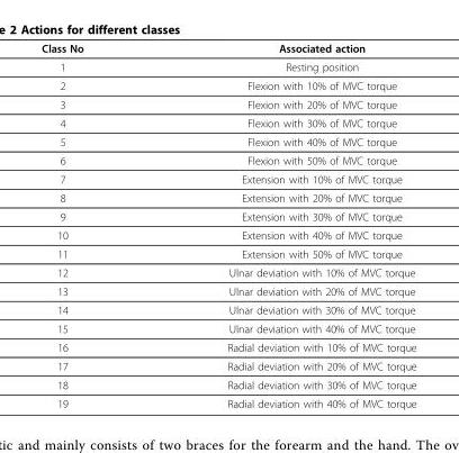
<table><thead><tr><td>Class No</td><td>Associated action</td></tr></thead><tbody><tr><td>1</td><td>Resting position</td></tr><tr><td>2</td><td>Flexion with 10% of MVC torque</td></tr><tr><td>3</td><td>Flexion with 20% of MVC torque</td></tr><tr><td>4</td><td>Flexion with 30% of MVC torque</td></tr><tr><td>5</td><td>Flexion with 40% of MVC torque</td></tr><tr><td>6</td><td>Flexion with 50% of MVC torque</td></tr><tr><td>7</td><td>Extension with 10% of MVC torque</td></tr><tr><td>8</td><td>Extension with 20% of MVC torque</td></tr><tr><td>9</td><td>Extension with 30% of MVC torque</td></tr><tr><td>10</td><td>Extension with 40% of MVC torque</td></tr><tr><td>11</td><td>Extension with 50% of MVC torque</td></tr><tr><td>12</td><td>Ulnar deviation with 10% of MVC torque</td></tr><tr><td>13</td><td>Ulnar deviation with 20% of MVC torque</td></tr><tr><td>14</td><td>Ulnar deviation with 30% of MVC torque</td></tr><tr><td>15</td><td>Ulnar deviation with 40% of MVC torque</td></tr><tr><td>16</td><td>Radial deviation with 10% of MVC torque</td></tr><tr><td>17</td><td>Radial deviation with 20% of MVC torque</td></tr><tr><td>18</td><td>Radial deviation with 30% of MVC torque</td></tr><tr><td>19</td><td>Radial deviation with 40% of MVC torque</td></tr></tbody></table>